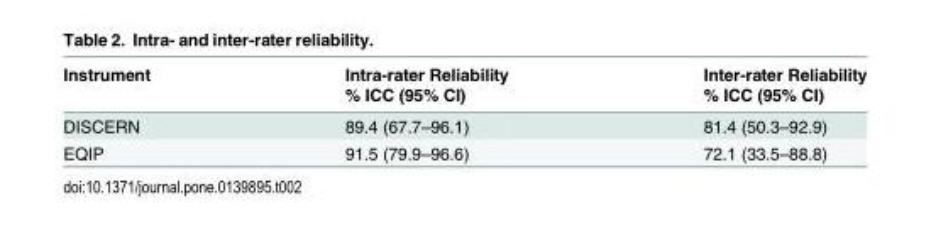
<table><thead><tr><td rowspan="2">Instrument</td><td rowspan="2">Intra-rater Reliability % ICC (95% CI)</td><td rowspan="2">Inter-rater Reliability % ICC (95% CI)</td></tr><tr></tr></thead><tbody><tr><td>DISCERN</td><td>89.4 (67.7–96.1)</td><td>81.4 (50.3–92.9)</td></tr><tr><td>EQIP</td><td>91.5 (79.9–96.6)</td><td>72.1 (33.5–88.8)</td></tr></tbody></table>